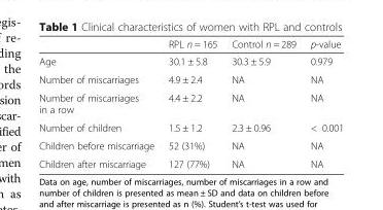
<table><thead><tr><td></td><td>RPL n = 165</td><td>Control n = 289</td><td>p-value</td></tr></thead><tbody><tr><td>Age</td><td>30.1 ± 5.8</td><td>30.3 ± 5.9</td><td>0.979</td></tr><tr><td>Number of miscarriages</td><td>4.9 ± 2.4</td><td>NA</td><td>NA</td></tr><tr><td>Number of miscarriages in a row</td><td>4.4 ± 2.2</td><td>NA</td><td>NA</td></tr><tr><td>Number of children</td><td>1.5 ± 1.2</td><td>2.3 ± 0.96</td><td>&lt; 0.001</td></tr><tr><td>Children before miscarriage</td><td>52 (31%)</td><td>NA</td><td>NA</td></tr><tr><td>Children after miscarriage</td><td>127 (77%)</td><td>NA</td><td>NA</td></tr></tbody></table>